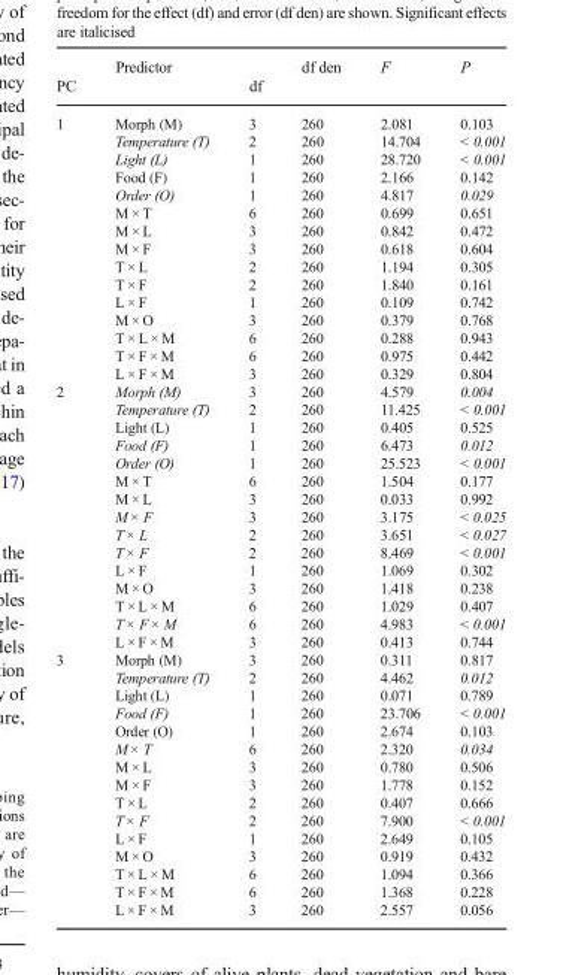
<table><thead><tr><td>PC</td><td>Predictor</td><td>df</td><td>df den</td><td>F</td><td>P</td></tr></thead><tbody><tr><td rowspan="15">1</td><td>Morph (M)</td><td>3</td><td>260</td><td>2.081</td><td>0.103</td></tr><tr><td>Temperature (T)</td><td>2</td><td>260</td><td>14.704</td><td>&lt; 0.001</td></tr><tr><td>Light (L)</td><td>1</td><td>260</td><td>28.720</td><td>&lt; 0.001</td></tr><tr><td>Food (F)</td><td>1</td><td>260</td><td>2.166</td><td>0.142</td></tr><tr><td>Order (O)</td><td>1</td><td>260</td><td>4.817</td><td>0.029</td></tr><tr><td>M × T</td><td>6</td><td>260</td><td>0.699</td><td>0.651</td></tr><tr><td>M × L</td><td>3</td><td>260</td><td>0.842</td><td>0.472</td></tr><tr><td>M × F</td><td>3</td><td>260</td><td>0.618</td><td>0.604</td></tr><tr><td>T × L</td><td>2</td><td>260</td><td>1.194</td><td>0.305</td></tr><tr><td>T × F</td><td>2</td><td>260</td><td>1.840</td><td>0.161</td></tr><tr><td>L × F</td><td>1</td><td>260</td><td>0.109</td><td>0.742</td></tr><tr><td>M × O</td><td>3</td><td>260</td><td>0.379</td><td>0.768</td></tr><tr><td>T × L × M</td><td>6</td><td>260</td><td>0.288</td><td>0.943</td></tr><tr><td>T × F × M</td><td>6</td><td>260</td><td>0.975</td><td>0.442</td></tr><tr><td>L × F × M</td><td>3</td><td>260</td><td>0.329</td><td>0.804</td></tr><tr><td rowspan="15">2</td><td>Morph (M)</td><td>3</td><td>260</td><td>4.579</td><td>0.004</td></tr><tr><td>Temperature (T)</td><td>2</td><td>260</td><td>11.425</td><td>&lt; 0.001</td></tr><tr><td>Light (L)</td><td>1</td><td>260</td><td>0.405</td><td>0.525</td></tr><tr><td>Food (F)</td><td>1</td><td>260</td><td>6.473</td><td>0.012</td></tr><tr><td>Order (O)</td><td>1</td><td>260</td><td>25.523</td><td>&lt; 0.001</td></tr><tr><td>M × T</td><td>6</td><td>260</td><td>1.504</td><td>0.177</td></tr><tr><td>M × L</td><td>3</td><td>260</td><td>0.033</td><td>0.992</td></tr><tr><td>M × F</td><td>3</td><td>260</td><td>3.175</td><td>&lt; 0.025</td></tr><tr><td>T × L</td><td>2</td><td>260</td><td>3.651</td><td>&lt; 0.027</td></tr><tr><td>T × F</td><td>2</td><td>260</td><td>8.469</td><td>&lt; 0.001</td></tr><tr><td>L × F</td><td>1</td><td>260</td><td>1.069</td><td>0.302</td></tr><tr><td>M × O</td><td>3</td><td>260</td><td>1.418</td><td>0.238</td></tr><tr><td>T × L × M</td><td>6</td><td>260</td><td>1.029</td><td>0.407</td></tr><tr><td>T × F × M</td><td>6</td><td>260</td><td>4.983</td><td>&lt; 0.001</td></tr><tr><td>L × F × M</td><td>3</td><td>260</td><td>0.413</td><td>0.744</td></tr><tr><td rowspan="15">3</td><td>Morph (M)</td><td>3</td><td>260</td><td>0.311</td><td>0.817</td></tr><tr><td>Temperature (T)</td><td>2</td><td>260</td><td>4.462</td><td>0.012</td></tr><tr><td>Light (L)</td><td>1</td><td>260</td><td>0.071</td><td>0.789</td></tr><tr><td>Food (F)</td><td>1</td><td>260</td><td>23.706</td><td>&lt; 0.001</td></tr><tr><td>Order (O)</td><td>1</td><td>260</td><td>2.674</td><td>0.103</td></tr><tr><td>M × T</td><td>6</td><td>260</td><td>2.320</td><td>0.034</td></tr><tr><td>M × L</td><td>3</td><td>260</td><td>0.780</td><td>0.506</td></tr><tr><td>M × F</td><td>3</td><td>260</td><td>1.778</td><td>0.152</td></tr><tr><td>T × L</td><td>2</td><td>260</td><td>0.407</td><td>0.666</td></tr><tr><td>T × F</td><td>2</td><td>260</td><td>7.900</td><td>&lt; 0.001</td></tr><tr><td>L × F</td><td>1</td><td>260</td><td>2.649</td><td>0.105</td></tr><tr><td>M × O</td><td>3</td><td>260</td><td>0.919</td><td>0.432</td></tr><tr><td>T × L × M</td><td>6</td><td>260</td><td>1.094</td><td>0.366</td></tr><tr><td>T × F × M</td><td>6</td><td>260</td><td>1.368</td><td>0.228</td></tr><tr><td>L × F × M</td><td>3</td><td>260</td><td>2.557</td><td>0.056</td></tr></tbody></table>